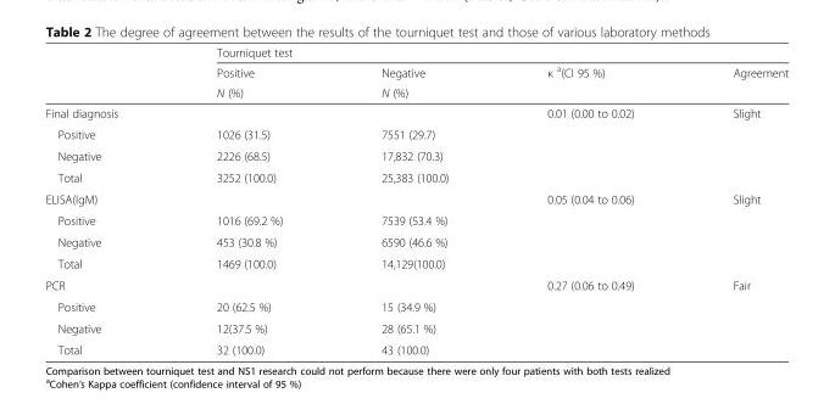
<table><thead><tr><td rowspan="3"></td><td colspan="4">Tourniquet test</td></tr><tr><td rowspan="2">Positive N (%)</td><td rowspan="2">Negative N (%)</td><td rowspan="2">κ <sup>a</sup>(CI 95 %)</td><td rowspan="2">Agreement</td></tr><tr></tr></thead><tbody><tr><td>Final diagnosis</td><td></td><td></td><td>0.01 (0.00 to 0.02)</td><td>Slight</td></tr><tr><td>Positive</td><td>1026 (31.5)</td><td>7551 (29.7)</td><td></td><td></td></tr><tr><td>Negative</td><td>2226 (68.5)</td><td>17,832 (70.3)</td><td></td><td></td></tr><tr><td>Total</td><td>3252 (100.0)</td><td>25,383 (100.0)</td><td></td><td></td></tr><tr><td>ELISA(IgM)</td><td></td><td></td><td>0.05 (0.04 to 0.06)</td><td>Slight</td></tr><tr><td>Positive</td><td>1016 (69.2 %)</td><td>7539 (53.4 %)</td><td></td><td></td></tr><tr><td>Negative</td><td>453 (30.8 %)</td><td>6590 (46.6 %)</td><td></td><td></td></tr><tr><td>Total</td><td>1469 (100.0)</td><td>14,129(100.0)</td><td></td><td></td></tr><tr><td>PCR</td><td></td><td></td><td>0.27 (0.06 to 0.49)</td><td>Fair</td></tr><tr><td>Positive</td><td>20 (62.5 %)</td><td>15 (34.9 %)</td><td></td><td></td></tr><tr><td>Negative</td><td>12(37.5 %)</td><td>28 (65.1 %)</td><td></td><td></td></tr><tr><td>Total</td><td>32 (100.0)</td><td>43 (100.0)</td><td></td><td></td></tr></tbody></table>